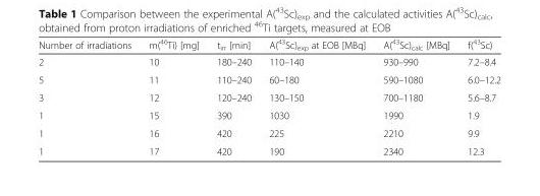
<table><thead><tr><td>Number of irradiations</td><td>m(<sup>46</sup>Ti) [mg]</td><td>t<sub>irr</sub> [min]</td><td>A(<sup>43</sup>Sc)<sub>exp</sub> at EOB [MBq]</td><td>A(<sup>43</sup>Sc)<sub>calc</sub> [MBq]</td><td>f(<sup>43</sup>Sc)</td></tr></thead><tbody><tr><td>2</td><td>10</td><td>180–240</td><td>110–140</td><td>930–990</td><td>7.2–8.4</td></tr><tr><td>5</td><td>11</td><td>110–240</td><td>60–180</td><td>590–1080</td><td>6.0–12.2</td></tr><tr><td>3</td><td>12</td><td>120–240</td><td>130–150</td><td>700–1180</td><td>5.6–8.7</td></tr><tr><td>1</td><td>15</td><td>390</td><td>1030</td><td>1990</td><td>1.9</td></tr><tr><td>1</td><td>16</td><td>420</td><td>225</td><td>2210</td><td>9.9</td></tr><tr><td>1</td><td>17</td><td>420</td><td>190</td><td>2340</td><td>12.3</td></tr></tbody></table>